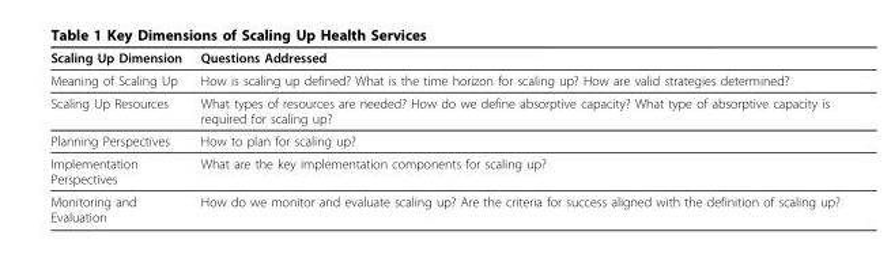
<table><thead><tr><td>Scaling Up Dimension</td><td>Questions Addressed</td></tr></thead><tbody><tr><td>Meaning of Scaling Up</td><td>How is scaling up defined? What is the time horizon for scaling up? How are valid strategies determined?</td></tr><tr><td>Scaling Up Resources</td><td>What types of resources are needed? How do we define absorptive capacity? What type of absorptive capacity is required for scaling up?</td></tr><tr><td>Planning Perspectives</td><td>How to plan for scaling up?</td></tr><tr><td>Implementation Perspectives</td><td>What are the key implementation components for scaling up?</td></tr><tr><td>Monitoring and Evaluation</td><td>How do we monitor and evaluate scaling up? Are the criteria for success aligned with the definition of scaling up?</td></tr></tbody></table>